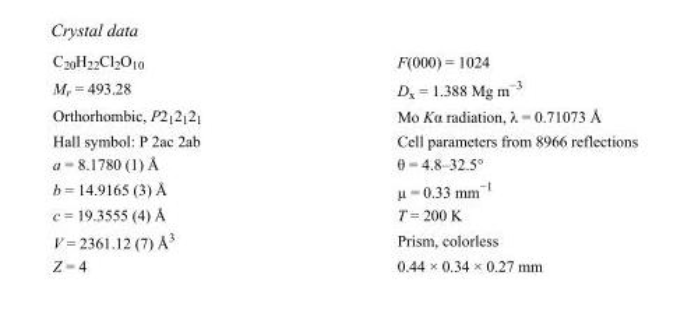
<table><tbody><tr><td>C<sub>20</sub>H<sub>22</sub>Cl<sub>2</sub>O<sub>10</sub></td><td>F(000) = 1024</td></tr><tr><td>M<sub>r</sub> = 493.28</td><td>D<sub>x</sub> = 1.388 Mg m<sup>−3</sup></td></tr><tr><td>Orthorhombic, P2<sub>1</sub>2<sub>1</sub>2<sub>1</sub></td><td>Mo Kα radiation, λ = 0.71073 Å</td></tr><tr><td>Hall symbol: P 2ac 2ab</td><td>Cell parameters from 8966 reflections</td></tr><tr><td>a = 8.1780 (1) Å</td><td>θ = 4.8–32.5°</td></tr><tr><td>b = 14.9165 (3) Å</td><td>µ = 0.33 mm<sup>−1</sup></td></tr><tr><td>c = 19.3555 (4) Å</td><td>T = 200 K</td></tr><tr><td>V = 2361.12 (7) Å<sup>3</sup></td><td>Prism, colorless</td></tr><tr><td>Z = 4</td><td>0.44 × 0.34 × 0.27 mm</td></tr></tbody></table>